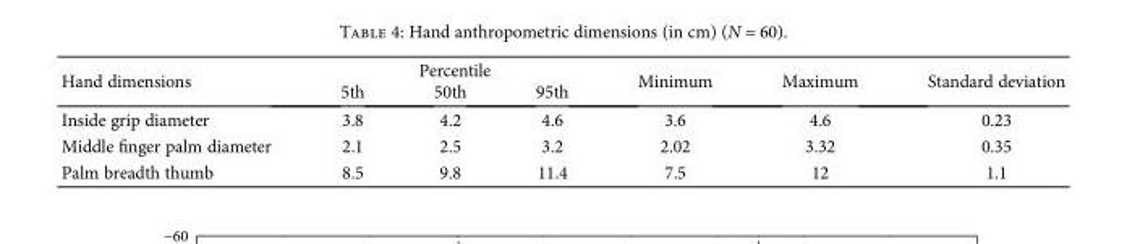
<table><thead><tr><td rowspan="2">Hand dimensions</td><td colspan="3">Percentile</td><td rowspan="2">Minimum</td><td rowspan="2">Maximum</td><td rowspan="2">Standard deviation</td></tr><tr><td>5th</td><td>50th</td><td>95th</td></tr></thead><tbody><tr><td>Inside grip diameter</td><td>3.8</td><td>4.2</td><td>4.6</td><td>3.6</td><td>4.6</td><td>0.23</td></tr><tr><td>Middle finger palm diameter</td><td>2.1</td><td>2.5</td><td>3.2</td><td>2.02</td><td>3.32</td><td>0.35</td></tr><tr><td>Palm breadth thumb</td><td>8.5</td><td>9.8</td><td>11.4</td><td>7.5</td><td>12</td><td>1.1</td></tr></tbody></table>